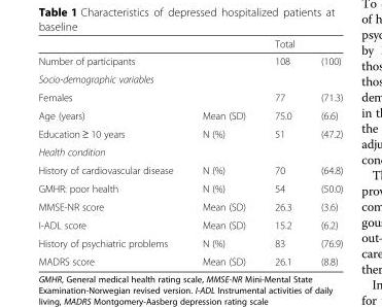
<table><thead><tr><td rowspan="2">Number of participants</td><td rowspan="2"></td><td colspan="2">Total</td></tr><tr><td>108</td><td>(100)</td></tr></thead><tbody><tr><td colspan="4">Socio-demographic variables</td></tr><tr><td>Females</td><td></td><td>77</td><td>(71.3)</td></tr><tr><td>Age (years)</td><td>Mean (SD)</td><td>75.0</td><td>(6.6)</td></tr><tr><td>Education ≥ 10 years</td><td>N (%)</td><td>51</td><td>(47.2)</td></tr><tr><td colspan="4">Health condition</td></tr><tr><td>History of cardiovascular disease</td><td>N (%)</td><td>70</td><td>(64.8)</td></tr><tr><td>GMHR: poor health</td><td>N (%)</td><td>54</td><td>(50.0)</td></tr><tr><td>MMSE-NR score</td><td>Mean (SD)</td><td>26.3</td><td>(3.6)</td></tr><tr><td>I-ADL score</td><td>Mean (SD)</td><td>15.2</td><td>(6.2)</td></tr><tr><td>History of psychiatric problems</td><td>N (%)</td><td>83</td><td>(76.9)</td></tr><tr><td>MADRS score</td><td>Mean (SD)</td><td>26.1</td><td>(8.8)</td></tr></tbody></table>